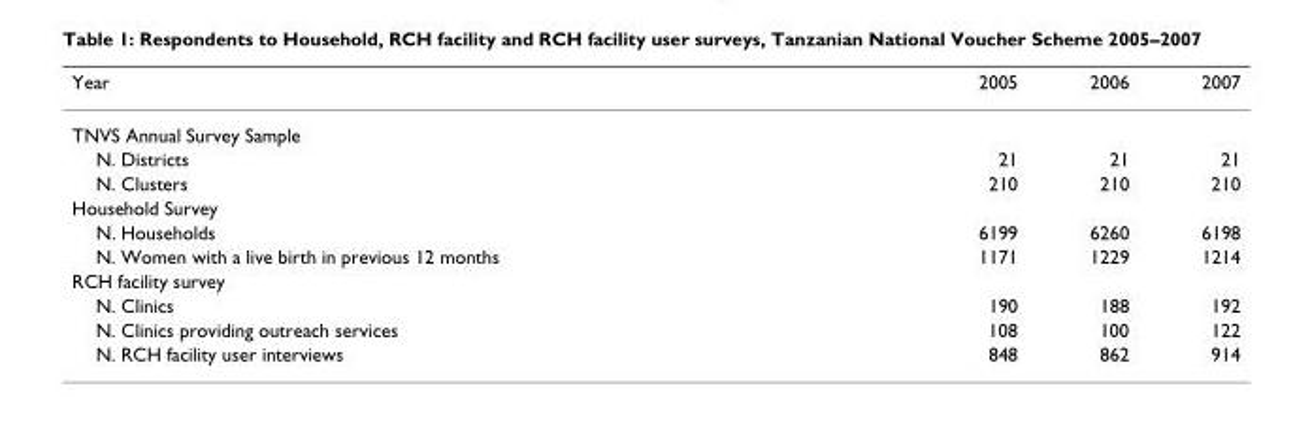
<table><thead><tr><td>Year</td><td>2005</td><td>2006</td><td>2007</td></tr></thead><tbody><tr><td colspan="4">TNVS Annual Survey Sample</td></tr><tr><td>N. Districts</td><td>21</td><td>21</td><td>21</td></tr><tr><td>N. Clusters</td><td>210</td><td>210</td><td>210</td></tr><tr><td colspan="4">Household Survey</td></tr><tr><td>N. Households</td><td>6199</td><td>6260</td><td>6198</td></tr><tr><td>N. Women with a live birth in previous 12 months</td><td>1171</td><td>1229</td><td>1214</td></tr><tr><td colspan="4">RCH facility survey</td></tr><tr><td>N. Clinics</td><td>190</td><td>188</td><td>192</td></tr><tr><td>N. Clinics providing outreach services</td><td>108</td><td>100</td><td>122</td></tr><tr><td>N. RCH facility user interviews</td><td>848</td><td>862</td><td>914</td></tr></tbody></table>